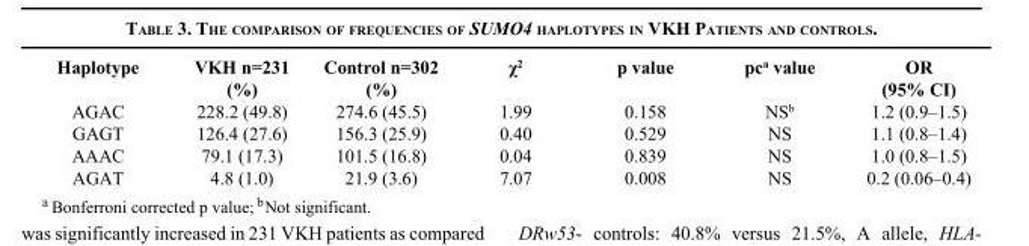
<table><thead><tr><td>Haplotype</td><td>VKH n=231 (%)</td><td>Control n=302 (%)</td><td>χ<sup>2</sup></td><td>p value</td><td>pc<sup>a</sup> value</td><td>OR (95% CI)</td></tr></thead><tbody><tr><td>AGAC</td><td>228.2 (49.8)</td><td>274.6 (45.5)</td><td>1.99</td><td>0.158</td><td>NS<sup>b</sup></td><td>1.2 (0.9–1.5)</td></tr><tr><td>GAGT</td><td>126.4 (27.6)</td><td>156.3 (25.9)</td><td>0.40</td><td>0.529</td><td>NS</td><td>1.1 (0.8–1.4)</td></tr><tr><td>AAAC</td><td>79.1 (17.3)</td><td>101.5 (16.8)</td><td>0.04</td><td>0.839</td><td>NS</td><td>1.0 (0.8–1.5)</td></tr><tr><td>AGAT</td><td>4.8 (1.0)</td><td>21.9 (3.6)</td><td>7.07</td><td>0.008</td><td>NS</td><td>0.2 (0.06–0.4)</td></tr></tbody></table>